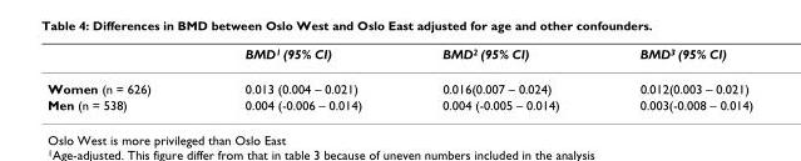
<table><thead><tr><td></td><td>BMD<sup>1</sup> (95% CI)</td><td>BMD<sup>2</sup> (95% CI)</td><td>BMD<sup>3</sup> (95% CI)</td></tr></thead><tbody><tr><td>Women (n = 626)</td><td>0.013 (0.004 – 0.021)</td><td>0.016(0.007 – 0.024)</td><td>0.012(0.003 – 0.021)</td></tr><tr><td>Men (n = 538)</td><td>0.004 (-0.006 – 0.014)</td><td>0.004 (-0.005 – 0.014)</td><td>0.003(-0.008 – 0.014)</td></tr></tbody></table>